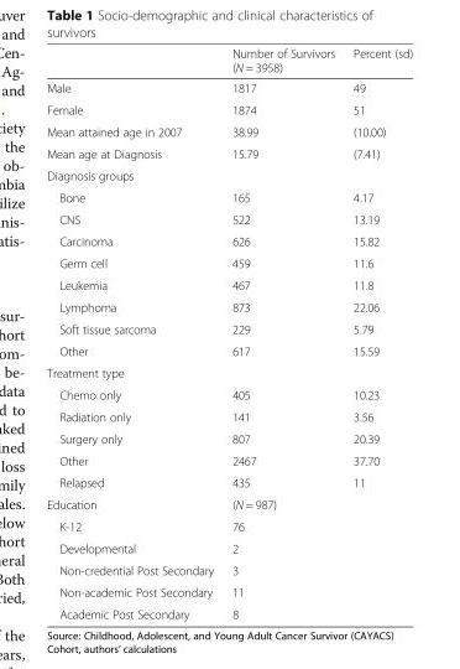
<table><thead><tr><td></td><td>Number of Survivors (N = 3958)</td><td>Percent (sd)</td></tr></thead><tbody><tr><td>Male</td><td>1817</td><td>49</td></tr><tr><td>Female</td><td>1874</td><td>51</td></tr><tr><td>Mean attained age in 2007</td><td>38.99</td><td>(10.00)</td></tr><tr><td>Mean age at Diagnosis</td><td>15.79</td><td>(7.41)</td></tr><tr><td colspan="3">Diagnosis groups</td></tr><tr><td>Bone</td><td>165</td><td>4.17</td></tr><tr><td>CNS</td><td>522</td><td>13.19</td></tr><tr><td>Carcinoma</td><td>626</td><td>15.82</td></tr><tr><td>Germ cell</td><td>459</td><td>11.6</td></tr><tr><td>Leukemia</td><td>467</td><td>11.8</td></tr><tr><td>Lymphoma</td><td>873</td><td>22.06</td></tr><tr><td>Soft tissue sarcoma</td><td>229</td><td>5.79</td></tr><tr><td>Other</td><td>617</td><td>15.59</td></tr><tr><td colspan="3">Treatment type</td></tr><tr><td>Chemo only</td><td>405</td><td>10.23</td></tr><tr><td>Radiation only</td><td>141</td><td>3.56</td></tr><tr><td>Surgery only</td><td>807</td><td>20.39</td></tr><tr><td>Other</td><td>2467</td><td>37.70</td></tr><tr><td>Relapsed</td><td>435</td><td>11</td></tr><tr><td>Education</td><td>(N = 987)</td><td></td></tr><tr><td>K-12</td><td>76</td><td></td></tr><tr><td>Developmental</td><td>2</td><td></td></tr><tr><td>Non-credential Post Secondary</td><td>3</td><td></td></tr><tr><td>Non-academic Post Secondary</td><td>11</td><td></td></tr><tr><td>Academic Post Secondary</td><td>8</td><td></td></tr></tbody></table>